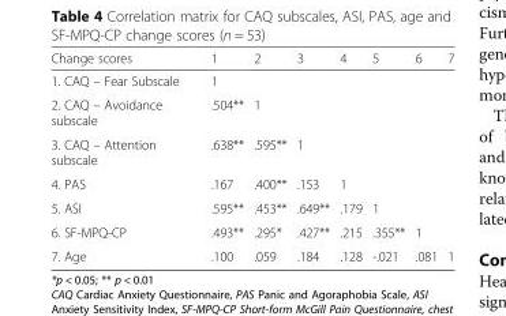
<table><thead><tr><td>Change scores</td><td>1</td><td>2</td><td>3</td><td>4</td><td>5</td><td>6</td><td>7</td></tr></thead><tbody><tr><td>1. CAQ – Fear Subscale</td><td>1</td><td></td><td></td><td></td><td></td><td></td><td></td></tr><tr><td>2. CAQ – Avoidance subscale</td><td>.504**</td><td>1</td><td></td><td></td><td></td><td></td><td></td></tr><tr><td>3. CAQ – Attention subscale</td><td>.638**</td><td>.595**</td><td>1</td><td></td><td></td><td></td><td></td></tr><tr><td>4. PAS</td><td>.167</td><td>.400**</td><td>.153</td><td>1</td><td></td><td></td><td></td></tr><tr><td>5. ASI</td><td>.595**</td><td>.453**</td><td>.649**</td><td>.179</td><td>1</td><td></td><td></td></tr><tr><td>6. SF-MPQ-CP</td><td>.493**</td><td>.295*</td><td>.427**</td><td>.215</td><td>.355**</td><td>1</td><td></td></tr><tr><td>7. Age</td><td>.100</td><td>.059</td><td>.184</td><td>.128</td><td>-.021</td><td>.081</td><td>1</td></tr></tbody></table>